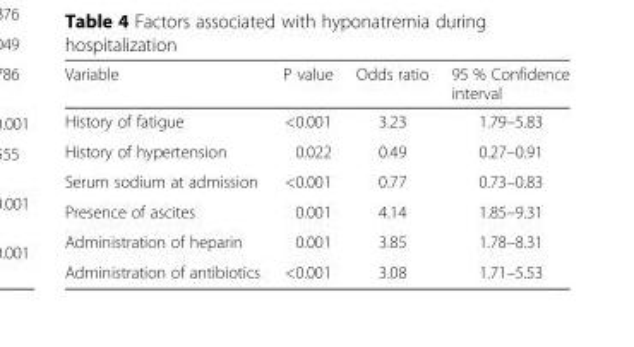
<table><thead><tr><td>Variable</td><td>P value</td><td>Odds ratio</td><td>95 % Confidence interval</td></tr></thead><tbody><tr><td>History of fatigue</td><td>&lt;0.001</td><td>3.23</td><td>1.79–5.83</td></tr><tr><td>History of hypertension</td><td>0.022</td><td>0.49</td><td>0.27–0.91</td></tr><tr><td>Serum sodium at admission</td><td>&lt;0.001</td><td>0.77</td><td>0.73–0.83</td></tr><tr><td>Presence of ascites</td><td>0.001</td><td>4.14</td><td>1.85–9.31</td></tr><tr><td>Administration of heparin</td><td>0.001</td><td>3.85</td><td>1.78–8.31</td></tr><tr><td>Administration of antibiotics</td><td>&lt;0.001</td><td>3.08</td><td>1.71–5.53</td></tr></tbody></table>